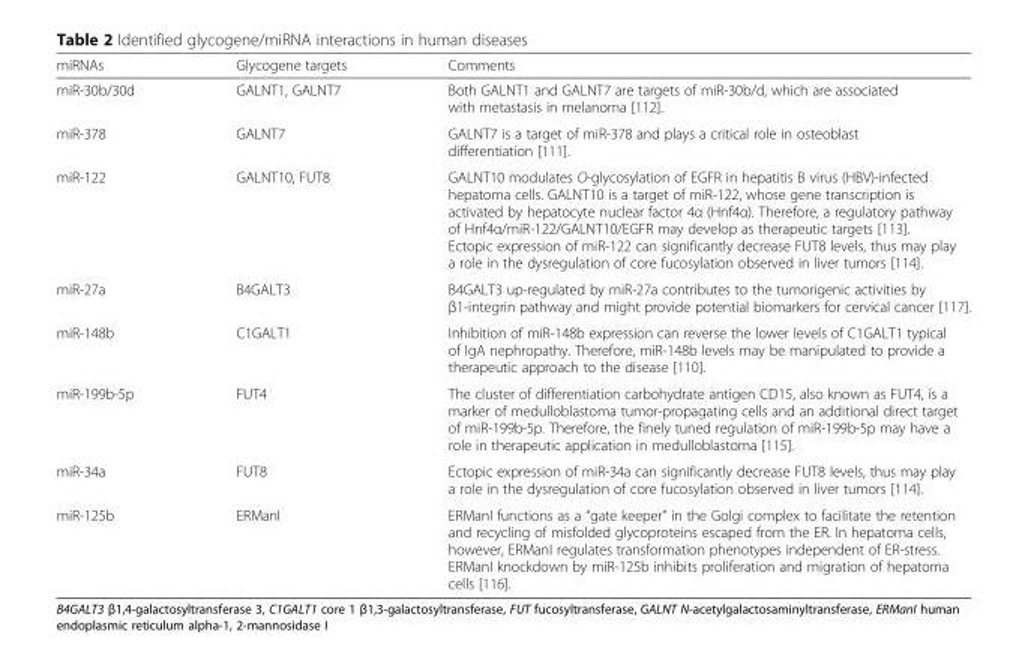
<table><thead><tr><td>miRNAs</td><td>Glycogene targets</td><td>Comments</td></tr></thead><tbody><tr><td>miR-30b/30d</td><td>GALNT1, GALNT7</td><td>Both GALNT1 and GALNT7 are targets of miR-30b/d, which are associated with metastasis in melanoma [112].</td></tr><tr><td>miR-378</td><td>GALNT7</td><td>GALNT7 is a target of miR-378 and plays a critical role in osteoblast differentiation [111].</td></tr><tr><td>miR-122</td><td>GALNT10, FUT8</td><td>GALNT10 modulates O-glycosylation of EGFR in hepatitis B virus (HBV)-infected hepatoma cells. GALNT10 is a target of miR-122, whose gene transcription is activated by hepatocyte nuclear factor 4α (Hnf4α). Therefore, a regulatory pathway of Hnf4α/miR-122/GALNT10/EGFR may develop as therapeutic targets [113]. Ectopic expression of miR-122 can significantly decrease FUT8 levels, thus may play a role in the dysregulation of core fucosylation observed in liver tumors [114].</td></tr><tr><td>miR-27a</td><td>B4GALT3</td><td>B4GALT3 up-regulated by miR-27a contributes to the tumorigenic activities by β1-integrin pathway and might provide potential biomarkers for cervical cancer [117].</td></tr><tr><td>miR-148b</td><td>C1GALT1</td><td>Inhibition of miR-148b expression can reverse the lower levels of C1GALT1 typical of IgA nephropathy. Therefore, miR-148b levels may be manipulated to provide a therapeutic approach to the disease [110].</td></tr><tr><td>miR-199b-5p</td><td>FUT4</td><td>The cluster of differentiation carbohydrate antigen CD15, also known as FUT4, is a marker of medulloblastoma tumor-propagating cells and an additional direct target of miR-199b-5p. Therefore, the finely tuned regulation of miR-199b-5p may have a role in therapeutic application in medulloblastoma [115].</td></tr><tr><td>miR-34a</td><td>FUT8</td><td>Ectopic expression of miR-34a can significantly decrease FUT8 levels, thus may play a role in the dysregulation of core fucosylation observed in liver tumors [114].</td></tr><tr><td>miR-125b</td><td>ERManI</td><td>ERManI functions as a “gate keeper” in the Golgi complex to facilitate the retention and recycling of misfolded glycoproteins escaped from the ER. In hepatoma cells, however, ERManI regulates transformation phenotypes independent of ER-stress. ERManI knockdown by miR-125b inhibits proliferation and migration of hepatoma cells [116].</td></tr></tbody></table>